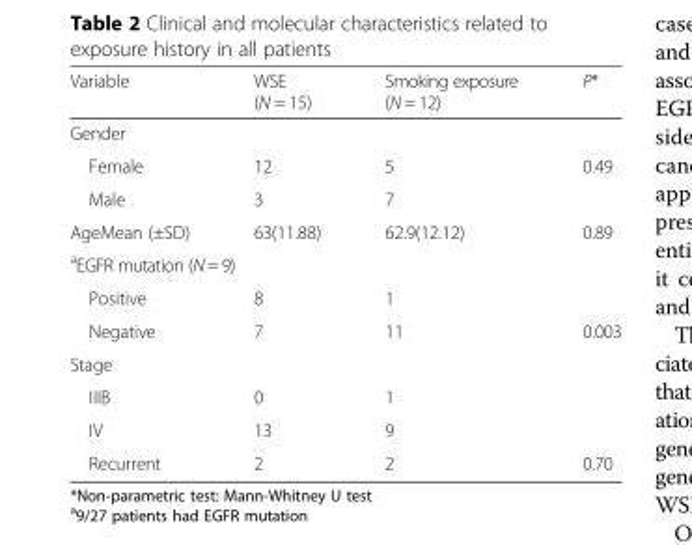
<table><thead><tr><td>Variable</td><td>WSE (N = 15)</td><td>Smoking exposure (N = 12)</td><td>P*</td></tr></thead><tbody><tr><td colspan="4">Gender</td></tr><tr><td>Female</td><td>12</td><td>5</td><td rowspan="2">0.49</td></tr><tr><td>Male</td><td>3</td><td>7</td></tr><tr><td>AgeMean (±SD)</td><td>63(11.88)</td><td>62.9(12.12)</td><td>0.89</td></tr><tr><td colspan="4"><sup>a</sup>EGFR mutation (N = 9)</td></tr><tr><td>Positive</td><td>8</td><td>1</td><td></td></tr><tr><td>Negative</td><td>7</td><td>11</td><td>0.003</td></tr><tr><td colspan="4">Stage</td></tr><tr><td>IIIB</td><td>0</td><td>1</td><td></td></tr><tr><td>IV</td><td>13</td><td>9</td><td></td></tr><tr><td>Recurrent</td><td>2</td><td>2</td><td>0.70</td></tr></tbody></table>